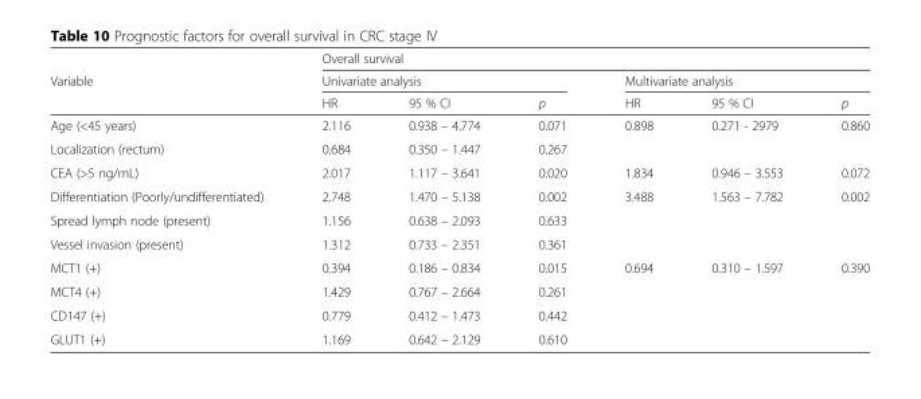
<table><thead><tr><td rowspan="3">Variable</td><td colspan="6">Overall survival</td></tr><tr><td colspan="3">Univariate analysis</td><td colspan="3">Multivariate analysis</td></tr><tr><td>HR</td><td>95 % CI</td><td>p</td><td>HR</td><td>95 % CI</td><td>p</td></tr></thead><tbody><tr><td>Age (&lt;45 years)</td><td>2.116</td><td>0.938 – 4.774</td><td>0.071</td><td>0.898</td><td>0.271 - 2979</td><td>0.860</td></tr><tr><td>Localization (rectum)</td><td>0.684</td><td>0.350 – 1.447</td><td>0.267</td><td></td><td></td><td></td></tr><tr><td>CEA (&gt;5 ng/mL)</td><td>2.017</td><td>1.117 – 3.641</td><td>0.020</td><td>1.834</td><td>0.946 – 3.553</td><td>0.072</td></tr><tr><td>Differentiation (Poorly/undifferentiated)</td><td>2.748</td><td>1.470 – 5.138</td><td>0.002</td><td>3.488</td><td>1.563 – 7.782</td><td>0.002</td></tr><tr><td>Spread lymph node (present)</td><td>1.156</td><td>0.638 – 2.093</td><td>0.633</td><td></td><td></td><td></td></tr><tr><td>Vessel invasion (present)</td><td>1.312</td><td>0.733 – 2.351</td><td>0.361</td><td></td><td></td><td></td></tr><tr><td>MCT1 (+)</td><td>0.394</td><td>0.186 – 0.834</td><td>0.015</td><td>0.694</td><td>0.310 – 1.597</td><td>0.390</td></tr><tr><td>MCT4 (+)</td><td>1.429</td><td>0.767 – 2.664</td><td>0.261</td><td></td><td></td><td></td></tr><tr><td>CD147 (+)</td><td>0.779</td><td>0.412 – 1.473</td><td>0.442</td><td></td><td></td><td></td></tr><tr><td>GLUT1 (+)</td><td>1.169</td><td>0.642 – 2.129</td><td>0.610</td><td></td><td></td><td></td></tr></tbody></table>